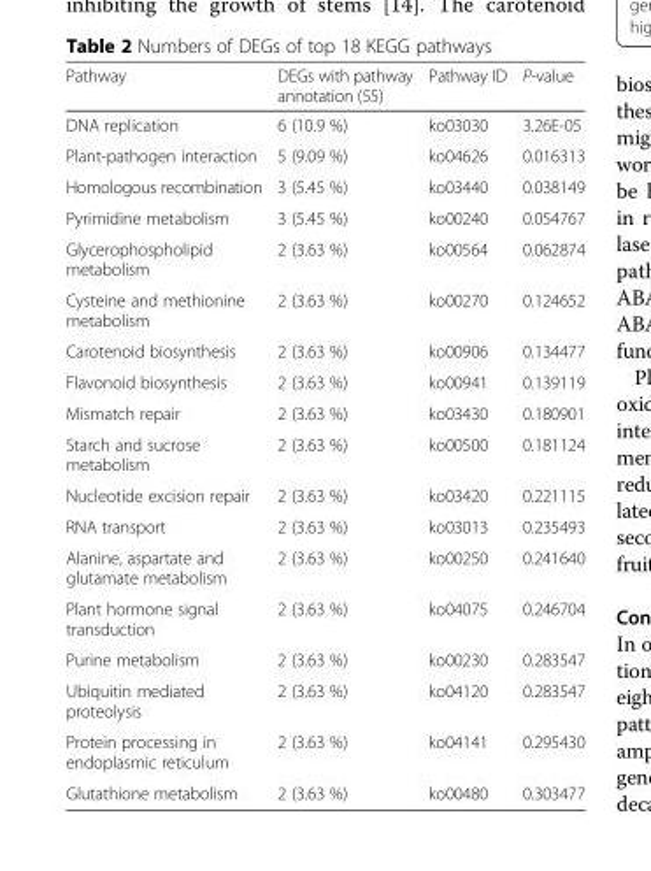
<table><thead><tr><td>Pathway</td><td>DEGs with pathway annotation (55)</td><td>Pathway ID</td><td>P-value</td></tr></thead><tbody><tr><td>DNA replication</td><td>6 (10.9 %)</td><td>ko03030</td><td>3.26E-05</td></tr><tr><td>Plant-pathogen interaction</td><td>5 (9.09 %)</td><td>ko04626</td><td>0.016313</td></tr><tr><td>Homologous recombination</td><td>3 (5.45 %)</td><td>ko03440</td><td>0.038149</td></tr><tr><td>Pyrimidine metabolism</td><td>3 (5.45 %)</td><td>ko00240</td><td>0.054767</td></tr><tr><td>Glycerophospholipid metabolism</td><td>2 (3.63 %)</td><td>ko00564</td><td>0.062874</td></tr><tr><td>Cysteine and methionine metabolism</td><td>2 (3.63 %)</td><td>ko00270</td><td>0.124652</td></tr><tr><td>Carotenoid biosynthesis</td><td>2 (3.63 %)</td><td>ko00906</td><td>0.134477</td></tr><tr><td>Flavonoid biosynthesis</td><td>2 (3.63 %)</td><td>ko00941</td><td>0.139119</td></tr><tr><td>Mismatch repair</td><td>2 (3.63 %)</td><td>ko03430</td><td>0.180901</td></tr><tr><td>Starch and sucrose metabolism</td><td>2 (3.63 %)</td><td>ko00500</td><td>0.181124</td></tr><tr><td>Nucleotide excision repair</td><td>2 (3.63 %)</td><td>ko03420</td><td>0.221115</td></tr><tr><td>RNA transport</td><td>2 (3.63 %)</td><td>ko03013</td><td>0.235493</td></tr><tr><td>Alanine, aspartate and glutamate metabolism</td><td>2 (3.63 %)</td><td>ko00250</td><td>0.241640</td></tr><tr><td>Plant hormone signal transduction</td><td>2 (3.63 %)</td><td>ko04075</td><td>0.246704</td></tr><tr><td>Purine metabolism</td><td>2 (3.63 %)</td><td>ko00230</td><td>0.283547</td></tr><tr><td>Ubiquitin mediated proteolysis</td><td>2 (3.63 %)</td><td>ko04120</td><td>0.283547</td></tr><tr><td>Protein processing in endoplasmic reticulum</td><td>2 (3.63 %)</td><td>ko04141</td><td>0.295430</td></tr><tr><td>Glutathione metabolism</td><td>2 (3.63 %)</td><td>ko00480</td><td>0.303477</td></tr></tbody></table>